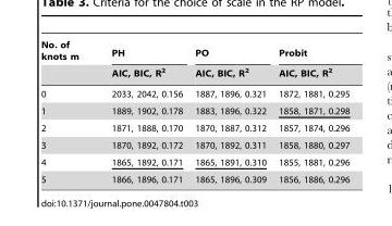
<table><thead><tr><td rowspan="2">No. of knots m</td><td rowspan="2">PH AIC, BIC, R<sup>2</sup></td><td rowspan="2">PO AIC, BIC, R<sup>2</sup></td><td rowspan="2">Probit AIC, BIC, R<sup>2</sup></td></tr><tr></tr></thead><tbody><tr><td>0</td><td>2033, 2042, 0.156</td><td>1887, 1896, 0.321</td><td>1872, 1881, 0.295</td></tr><tr><td>1</td><td>1889, 1902, 0.178</td><td>1883, 1896, 0.322</td><td>1858, 1871, 0.298</td></tr><tr><td>2</td><td>1871, 1888, 0.170</td><td>1870, 1887, 0.312</td><td>1857, 1874, 0.296</td></tr><tr><td>3</td><td>1870, 1892, 0.172</td><td>1870, 1892, 0.311</td><td>1858, 1880, 0.297</td></tr><tr><td>4</td><td>1865, 1892, 0.171</td><td>1865, 1891, 0.310</td><td>1855, 1881, 0.296</td></tr><tr><td>5</td><td>1866, 1896, 0.171</td><td>1865, 1896, 0.309</td><td>1856, 1886, 0.296</td></tr></tbody></table>